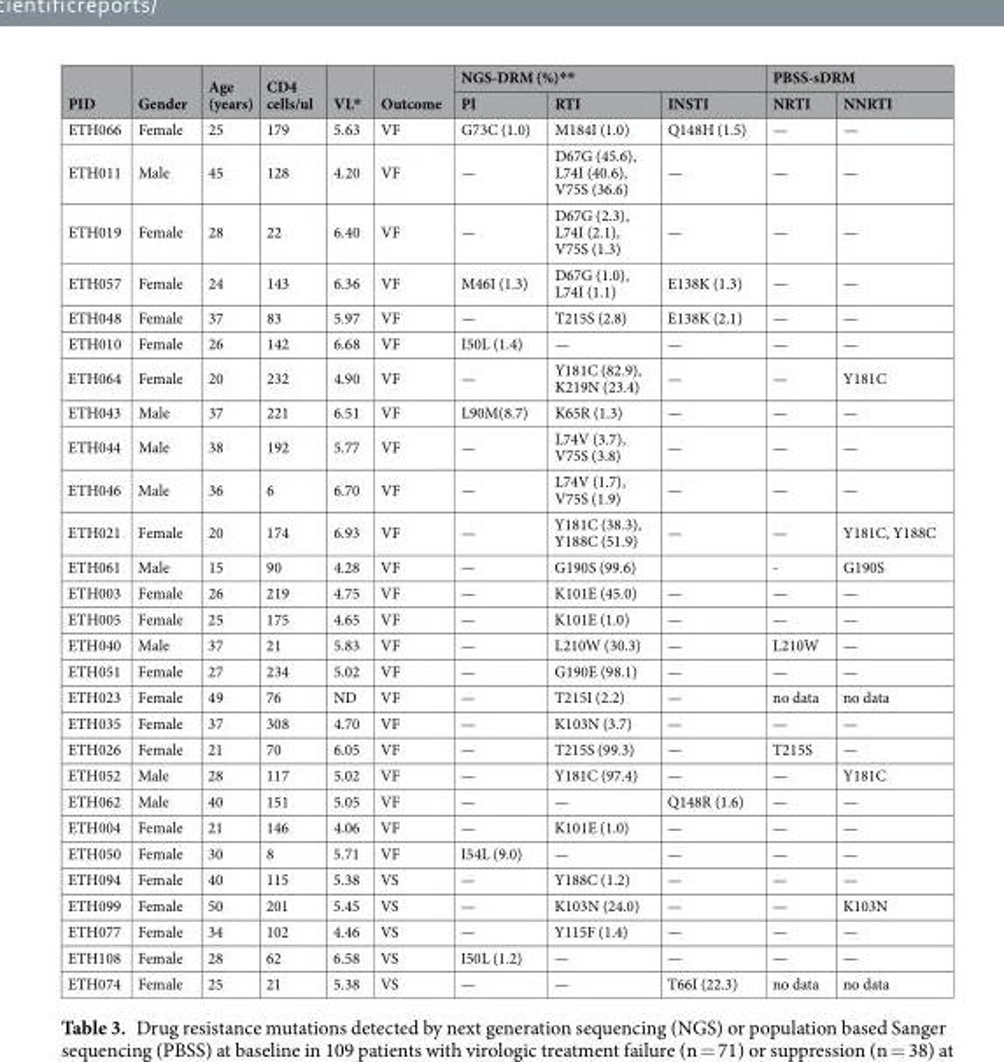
<table><thead><tr><td rowspan="2">PID</td><td rowspan="2">Gender</td><td rowspan="2">Age (years)</td><td rowspan="2">CD4 cells/ul</td><td rowspan="2">VL*</td><td rowspan="2">Outcome</td><td colspan="3">NGS-DRM (%)**</td><td colspan="2">PBSS-sDRM</td></tr><tr><td>PI</td><td>RTI</td><td>INSTI</td><td>NRTI</td><td>NNRTI</td></tr></thead><tbody><tr><td>ETH066</td><td>Female</td><td>25</td><td>179</td><td>5.63</td><td>VF</td><td>G73C (1.0)</td><td>M184I (1.0)</td><td>Q148H (1.5)</td><td>—</td><td>—</td></tr><tr><td>ETH011</td><td>Male</td><td>45</td><td>128</td><td>4.20</td><td>VF</td><td>—</td><td>D67G (45.6), L74I (40.6), V75S (36.6)</td><td>—</td><td>—</td><td>—</td></tr><tr><td>ETH019</td><td>Female</td><td>28</td><td>22</td><td>6.40</td><td>VF</td><td>—</td><td>D67G (2.3), L74I (2.1), V75S (1.3)</td><td>—</td><td>—</td><td>—</td></tr><tr><td>ETH057</td><td>Female</td><td>24</td><td>143</td><td>6.36</td><td>VF</td><td>M46I (1.3)</td><td>D67G (1.0), L74I (1.1)</td><td>E138K (1.3)</td><td>—</td><td>—</td></tr><tr><td>ETH048</td><td>Female</td><td>37</td><td>83</td><td>5.97</td><td>VF</td><td>—</td><td>T215S (2.8)</td><td>E138K (2.1)</td><td>—</td><td>—</td></tr><tr><td>ETH010</td><td>Female</td><td>26</td><td>142</td><td>6.68</td><td>VF</td><td>I50L (1.4)</td><td>—</td><td>—</td><td>—</td><td>—</td></tr><tr><td>ETH064</td><td>Female</td><td>20</td><td>232</td><td>4.90</td><td>VF</td><td>—</td><td>Y181C (82.9), K219N (23.4)</td><td>—</td><td>—</td><td>Y181C</td></tr><tr><td>ETH043</td><td>Male</td><td>37</td><td>221</td><td>6.51</td><td>VF</td><td>L90M(8.7)</td><td>K65R (1.3)</td><td>—</td><td>—</td><td>—</td></tr><tr><td>ETH044</td><td>Male</td><td>38</td><td>192</td><td>5.77</td><td>VF</td><td>—</td><td>L74V (3.7), V75S (3.8)</td><td>—</td><td>—</td><td>—</td></tr><tr><td>ETH046</td><td>Male</td><td>36</td><td>6</td><td>6.70</td><td>VF</td><td>—</td><td>L74V (1.7), V75S (1.9)</td><td>—</td><td>—</td><td>—</td></tr><tr><td>ETH021</td><td>Female</td><td>20</td><td>174</td><td>6.93</td><td>VF</td><td>—</td><td>Y181C (38.3), Y188C (51.9)</td><td>—</td><td>—</td><td>Y181C, Y188C</td></tr><tr><td>ETH061</td><td>Male</td><td>15</td><td>90</td><td>4.28</td><td>VF</td><td>—</td><td>G190S (99.6)</td><td></td><td>-</td><td>G190S</td></tr><tr><td>ETH003</td><td>Female</td><td>26</td><td>219</td><td>4.75</td><td>VF</td><td>—</td><td>K101E (45.0)</td><td>—</td><td>—</td><td>—</td></tr><tr><td>ETH005</td><td>Female</td><td>25</td><td>175</td><td>4.65</td><td>VF</td><td>—</td><td>K101E (1.0)</td><td>—</td><td>—</td><td>—</td></tr><tr><td>ETH040</td><td>Male</td><td>37</td><td>21</td><td>5.83</td><td>VF</td><td>—</td><td>L210W (30.3)</td><td>—</td><td>L210W</td><td>—</td></tr><tr><td>ETH051</td><td>Female</td><td>27</td><td>234</td><td>5.02</td><td>VF</td><td>—</td><td>G190E (98.1)</td><td>—</td><td>—</td><td>—</td></tr><tr><td>ETH023</td><td>Female</td><td>49</td><td>76</td><td>ND</td><td>VF</td><td>—</td><td>T215I (2.2)</td><td>—</td><td>no data</td><td>no data</td></tr><tr><td>ETH035</td><td>Female</td><td>37</td><td>308</td><td>4.70</td><td>VF</td><td>—</td><td>K103N (3.7)</td><td>—</td><td>—</td><td>—</td></tr><tr><td>ETH026</td><td>Female</td><td>21</td><td>70</td><td>6.05</td><td>VF</td><td>—</td><td>T215S (99.3)</td><td>—</td><td>T215S</td><td>—</td></tr><tr><td>ETH052</td><td>Male</td><td>28</td><td>117</td><td>5.02</td><td>VF</td><td>—</td><td>Y181C (97.4)</td><td>—</td><td>—</td><td>Y181C</td></tr><tr><td>ETH062</td><td>Male</td><td>40</td><td>151</td><td>5.05</td><td>VF</td><td>—</td><td>—</td><td>Q148R (1.6)</td><td>—</td><td>—</td></tr><tr><td>ETH004</td><td>Female</td><td>21</td><td>146</td><td>4.06</td><td>VF</td><td>—</td><td>K101E (1.0)</td><td>—</td><td>—</td><td>—</td></tr><tr><td>ETH050</td><td>Female</td><td>30</td><td>8</td><td>5.71</td><td>VF</td><td>I54L (9.0)</td><td>—</td><td>—</td><td>—</td><td>—</td></tr><tr><td>ETH094</td><td>Female</td><td>40</td><td>115</td><td>5.38</td><td>VS</td><td>—</td><td>Y188C (1.2)</td><td>—</td><td>—</td><td>—</td></tr><tr><td>ETH099</td><td>Female</td><td>50</td><td>201</td><td>5.45</td><td>VS</td><td>—</td><td>K103N (24.0)</td><td>—</td><td>—</td><td>K103N</td></tr><tr><td>ETH077</td><td>Female</td><td>34</td><td>102</td><td>4.46</td><td>VS</td><td>—</td><td>Y115F (1.4)</td><td>—</td><td>—</td><td>—</td></tr><tr><td>ETH108</td><td>Female</td><td>28</td><td>62</td><td>6.58</td><td>VS</td><td>I50L (1.2)</td><td>—</td><td>—</td><td>—</td><td>—</td></tr><tr><td>ETH074</td><td>Female</td><td>25</td><td>21</td><td>5.38</td><td>VS</td><td>—</td><td>—</td><td>T66I (22.3)</td><td>no data</td><td>no data</td></tr></tbody></table>